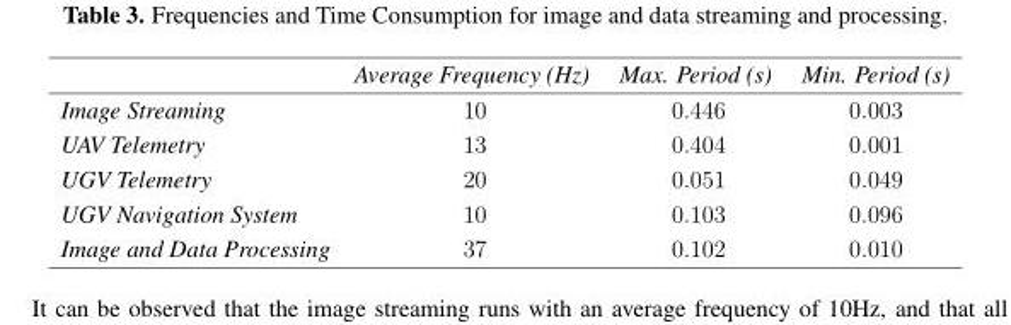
<table><thead><tr><td></td><td>Average Frequency (Hz)</td><td>Max. Period (s)</td><td>Min. Period (s)</td></tr></thead><tbody><tr><td>Image Streaming</td><td>10</td><td>0.446</td><td>0.003</td></tr><tr><td>UAV Telemetry</td><td>13</td><td>0.404</td><td>0.001</td></tr><tr><td>UGV Telemetry</td><td>20</td><td>0.051</td><td>0.049</td></tr><tr><td>UGV Navigation System</td><td>10</td><td>0.103</td><td>0.096</td></tr><tr><td>Image and Data Processing</td><td>37</td><td>0.102</td><td>0.010</td></tr></tbody></table>